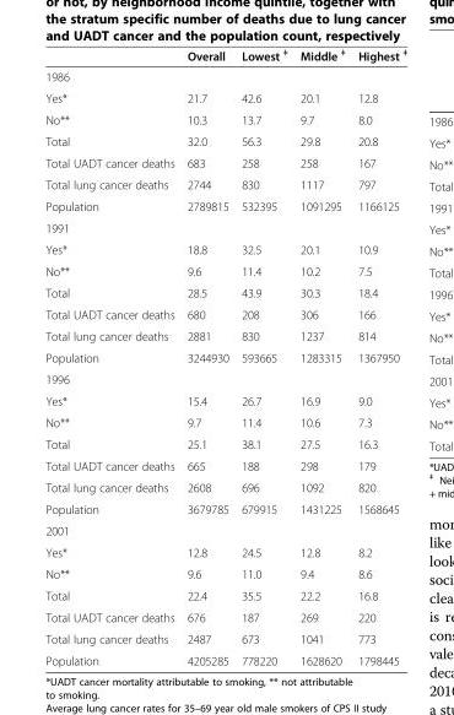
<table><thead><tr><td></td><td>Overall</td><td>Lowest <sup>ǂ</sup></td><td>Middle <sup>ǂ</sup></td><td>Highest <sup>ǂ</sup></td></tr></thead><tbody><tr><td colspan="5">1986</td></tr><tr><td>Yes*</td><td>21.7</td><td>42.6</td><td>20.1</td><td>12.8</td></tr><tr><td>No**</td><td>10.3</td><td>13.7</td><td>9.7</td><td>8.0</td></tr><tr><td>Total</td><td>32.0</td><td>56.3</td><td>29.8</td><td>20.8</td></tr><tr><td>Total UADT cancer deaths</td><td>683</td><td>258</td><td>258</td><td>167</td></tr><tr><td>Total lung cancer deaths</td><td>2744</td><td>830</td><td>1117</td><td>797</td></tr><tr><td>Population</td><td>2789815</td><td>532395</td><td>1091295</td><td>1166125</td></tr><tr><td colspan="5">1991</td></tr><tr><td>Yes*</td><td>18.8</td><td>32.5</td><td>20.1</td><td>10.9</td></tr><tr><td>No**</td><td>9.6</td><td>11.4</td><td>10.2</td><td>7.5</td></tr><tr><td>Total</td><td>28.5</td><td>43.9</td><td>30.3</td><td>18.4</td></tr><tr><td>Total UADT cancer deaths</td><td>680</td><td>208</td><td>306</td><td>166</td></tr><tr><td>Total lung cancer deaths</td><td>2881</td><td>830</td><td>1237</td><td>814</td></tr><tr><td>Population</td><td>3244930</td><td>593665</td><td>1283315</td><td>1367950</td></tr><tr><td colspan="5">1996</td></tr><tr><td>Yes*</td><td>15.4</td><td>26.7</td><td>16.9</td><td>9.0</td></tr><tr><td>No**</td><td>9.7</td><td>11.4</td><td>10.6</td><td>7.3</td></tr><tr><td>Total</td><td>25.1</td><td>38.1</td><td>27.5</td><td>16.3</td></tr><tr><td>Total UADT cancer deaths</td><td>665</td><td>188</td><td>298</td><td>179</td></tr><tr><td>Total lung cancer deaths</td><td>2608</td><td>696</td><td>1092</td><td>820</td></tr><tr><td>Population</td><td>3679785</td><td>679915</td><td>1431225</td><td>1568645</td></tr><tr><td colspan="5">2001</td></tr><tr><td>Yes*</td><td>12.8</td><td>24.5</td><td>12.8</td><td>8.2</td></tr><tr><td>No**</td><td>9.6</td><td>11.0</td><td>9.4</td><td>8.6</td></tr><tr><td>Total</td><td>22.4</td><td>35.5</td><td>22.2</td><td>16.8</td></tr><tr><td>Total UADT cancer deaths</td><td>676</td><td>187</td><td>269</td><td>220</td></tr><tr><td>Total lung cancer deaths</td><td>2487</td><td>673</td><td>1041</td><td>773</td></tr><tr><td>Population</td><td>4205285</td><td>778220</td><td>1628620</td><td>1798445</td></tr></tbody></table>